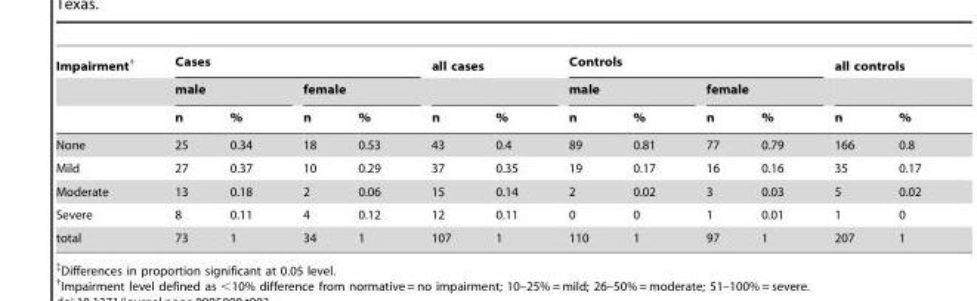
<table><thead><tr><td rowspan="3">Impairment†</td><td colspan="4">Cases</td><td colspan="2">all cases</td><td colspan="4">Controls</td><td colspan="2">all controls</td></tr><tr><td colspan="2">male</td><td colspan="2">female</td><td rowspan="2">n</td><td rowspan="2">%</td><td colspan="2">male</td><td colspan="2">female</td><td rowspan="2">n</td><td rowspan="2">%</td></tr><tr><td>n</td><td>%</td><td>n</td><td>%</td><td>n</td><td>%</td><td>n</td><td>%</td></tr></thead><tbody><tr><td>None</td><td>25</td><td>0.34</td><td>18</td><td>0.53</td><td>43</td><td>0.4</td><td>89</td><td>0.81</td><td>77</td><td>0.79</td><td>166</td><td>0.8</td></tr><tr><td>Mild</td><td>27</td><td>0.37</td><td>10</td><td>0.29</td><td>37</td><td>0.35</td><td>19</td><td>0.17</td><td>16</td><td>0.16</td><td>35</td><td>0.17</td></tr><tr><td>Moderate</td><td>13</td><td>0.18</td><td>2</td><td>0.06</td><td>15</td><td>0.14</td><td>2</td><td>0.02</td><td>3</td><td>0.03</td><td>5</td><td>0.02</td></tr><tr><td>Severe</td><td>8</td><td>0.11</td><td>4</td><td>0.12</td><td>12</td><td>0.11</td><td>0</td><td>0</td><td>1</td><td>0.01</td><td>1</td><td>0</td></tr><tr><td>total</td><td>73</td><td>1</td><td>34</td><td>1</td><td>107</td><td>1</td><td>110</td><td>1</td><td>97</td><td>1</td><td>207</td><td>1</td></tr></tbody></table>